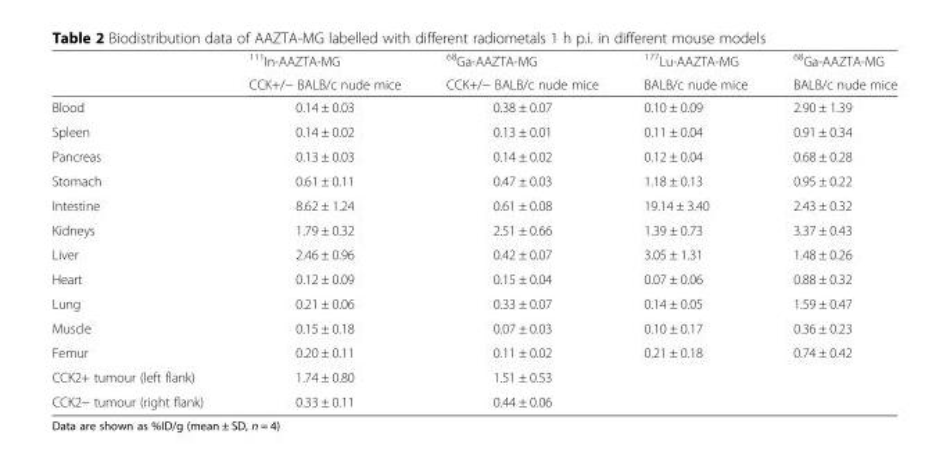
<table><thead><tr><td rowspan="2"></td><td rowspan="2"><sup>111</sup>In-AAZTA-MG CCK+/− BALB/c nude mice</td><td rowspan="2"><sup>68</sup>Ga-AAZTA-MG CCK+/− BALB/c nude mice</td><td rowspan="2"><sup>177</sup>Lu-AAZTA-MG BALB/c nude mice</td><td rowspan="2"><sup>68</sup>Ga-AAZTA-MG BALB/c nude mice</td></tr><tr></tr></thead><tbody><tr><td>Blood</td><td>0.14 ± 0.03</td><td>0.38 ± 0.07</td><td>0.10 ± 0.09</td><td>2.90 ± 1.39</td></tr><tr><td>Spleen</td><td>0.14 ± 0.02</td><td>0.13 ± 0.01</td><td>0.11 ± 0.04</td><td>0.91 ± 0.34</td></tr><tr><td>Pancreas</td><td>0.13 ± 0.03</td><td>0.14 ± 0.02</td><td>0.12 ± 0.04</td><td>0.68 ± 0.28</td></tr><tr><td>Stomach</td><td>0.61 ± 0.11</td><td>0.47 ± 0.03</td><td>1.18 ± 0.13</td><td>0.95 ± 0.22</td></tr><tr><td>Intestine</td><td>8.62 ± 1.24</td><td>0.61 ± 0.08</td><td>19.14 ± 3.40</td><td>2.43 ± 0.32</td></tr><tr><td>Kidneys</td><td>1.79 ± 0.32</td><td>2.51 ± 0.66</td><td>1.39 ± 0.73</td><td>3.37 ± 0.43</td></tr><tr><td>Liver</td><td>2.46 ± 0.96</td><td>0.42 ± 0.07</td><td>3.05 ± 1.31</td><td>1.48 ± 0.26</td></tr><tr><td>Heart</td><td>0.12 ± 0.09</td><td>0.15 ± 0.04</td><td>0.07 ± 0.06</td><td>0.88 ± 0.32</td></tr><tr><td>Lung</td><td>0.21 ± 0.06</td><td>0.33 ± 0.07</td><td>0.14 ± 0.05</td><td>1.59 ± 0.47</td></tr><tr><td>Muscle</td><td>0.15 ± 0.18</td><td>0.07 ± 0.03</td><td>0.10 ± 0.17</td><td>0.36 ± 0.23</td></tr><tr><td>Femur</td><td>0.20 ± 0.11</td><td>0.11 ± 0.02</td><td>0.21 ± 0.18</td><td>0.74 ± 0.42</td></tr><tr><td>CCK2+ tumour (left flank)</td><td>1.74 ± 0.80</td><td>1.51 ± 0.53</td><td></td><td></td></tr><tr><td>CCK2− tumour (right flank)</td><td>0.33 ± 0.11</td><td>0.44 ± 0.06</td><td></td><td></td></tr></tbody></table>